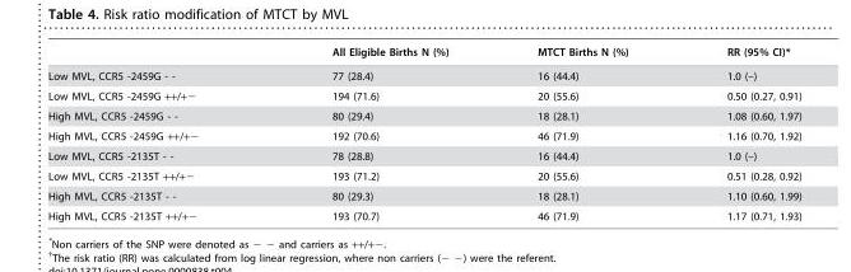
<table><thead><tr><td></td><td>All Eligible Births N (%)</td><td>MTCT Births N (%)</td><td>RR (95% CI)*</td></tr></thead><tbody><tr><td>Low MVL, CCR5 -2459G - -</td><td>77 (28.4)</td><td>16 (44.4)</td><td>1.0 (–)</td></tr><tr><td>Low MVL, CCR5 -2459G ++/+−</td><td>194 (71.6)</td><td>20 (55.6)</td><td>0.50 (0.27, 0.91)</td></tr><tr><td>High MVL, CCR5 -2459G - -</td><td>80 (29.4)</td><td>18 (28.1)</td><td>1.08 (0.60, 1.97)</td></tr><tr><td>High MVL, CCR5 -2459G ++/+−</td><td>192 (70.6)</td><td>46 (71.9)</td><td>1.16 (0.70, 1.92)</td></tr><tr><td>Low MVL, CCR5 -2135T - -</td><td>78 (28.8)</td><td>16 (44.4)</td><td>1.0 (–)</td></tr><tr><td>Low MVL, CCR5 -2135T ++/+−</td><td>193 (71.2)</td><td>20 (55.6)</td><td>0.51 (0.28, 0.92)</td></tr><tr><td>High MVL, CCR5 -2135T - -</td><td>80 (29.3)</td><td>18 (28.1)</td><td>1.10 (0.60, 1.99)</td></tr><tr><td>High MVL, CCR5 -2135T ++/+−</td><td>193 (70.7)</td><td>46 (71.9)</td><td>1.17 (0.71, 1.93)</td></tr></tbody></table>